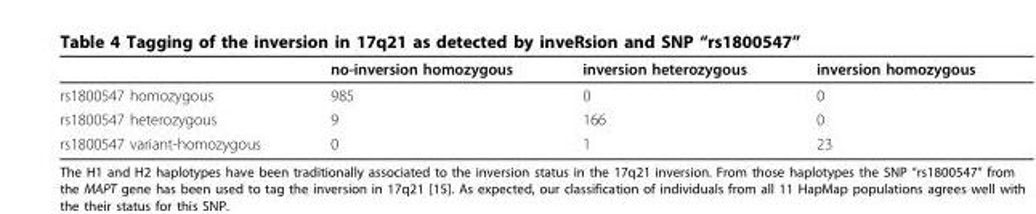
<table><thead><tr><td></td><td>no-inversion homozygous</td><td>inversion heterozygous</td><td>inversion homozygous</td></tr></thead><tbody><tr><td>rs1800547 homozygous</td><td>985</td><td>0</td><td>0</td></tr><tr><td>rs1800547 heterozygous</td><td>9</td><td>166</td><td>0</td></tr><tr><td>rs1800547 variant-homozygous</td><td>0</td><td>1</td><td>23</td></tr></tbody></table>